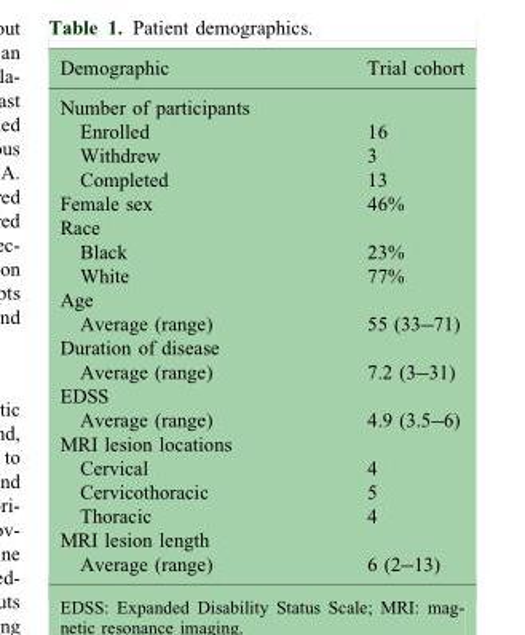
<table><thead><tr><td>Demographic</td><td>Trial cohort</td></tr></thead><tbody><tr><td colspan="2">Number of participants</td></tr><tr><td>Enrolled</td><td>16</td></tr><tr><td>Withdrew</td><td>3</td></tr><tr><td>Completed</td><td>13</td></tr><tr><td>Female sex</td><td>46%</td></tr><tr><td colspan="2">Race</td></tr><tr><td>Black</td><td>23%</td></tr><tr><td>White</td><td>77%</td></tr><tr><td colspan="2">Age</td></tr><tr><td>Average (range)</td><td>55 (33–71)</td></tr><tr><td colspan="2">Duration of disease</td></tr><tr><td>Average (range)</td><td>7.2 (3–31)</td></tr><tr><td colspan="2">EDSS</td></tr><tr><td>Average (range)</td><td>4.9 (3.5–6)</td></tr><tr><td colspan="2">MRI lesion locations</td></tr><tr><td>Cervical</td><td>4</td></tr><tr><td>Cervicothoracic</td><td>5</td></tr><tr><td>Thoracic</td><td>4</td></tr><tr><td colspan="2">MRI lesion length</td></tr><tr><td>Average (range)</td><td>6 (2–13)</td></tr></tbody></table>